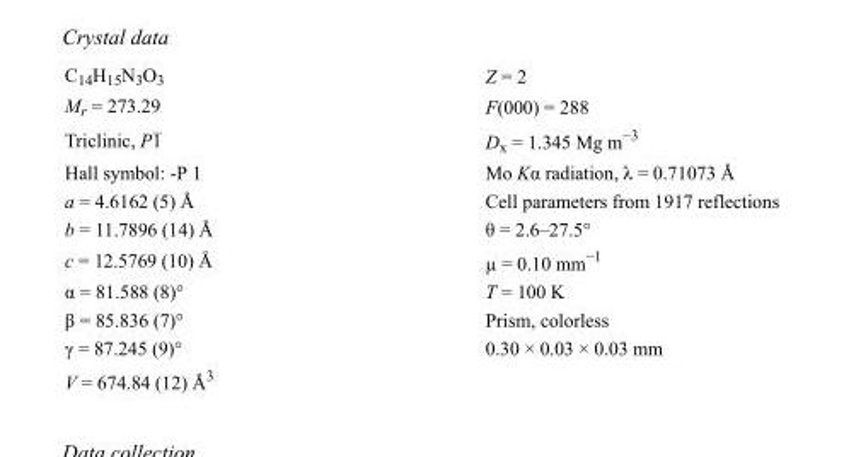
<table><tbody><tr><td>C<sub>14</sub>H<sub>15</sub>N<sub>3</sub>O<sub>3</sub></td><td>Z = 2</td></tr><tr><td>M<sub>r</sub> = 273.29</td><td>F(000) = 288</td></tr><tr><td>Triclinic, P1</td><td>D<sub>x</sub> = 1.345 Mg m<sup>−3</sup></td></tr><tr><td>Hall symbol: -P 1</td><td>Mo Kα radiation, λ = 0.71073 Å</td></tr><tr><td>a = 4.6162 (5) Å</td><td>Cell parameters from 1917 reflections</td></tr><tr><td>b = 11.7896 (14) Å</td><td>θ = 2.6–27.5°</td></tr><tr><td>c = 12.5769 (10) Å</td><td>µ = 0.10 mm<sup>−1</sup></td></tr><tr><td>α = 81.588 (8)°</td><td>T = 100 K</td></tr><tr><td>β = 85.836 (7)°</td><td>Prism, colorless</td></tr><tr><td>γ = 87.245 (9)°</td><td>0.30 × 0.03 × 0.03 mm</td></tr><tr><td>V = 674.84 (12) Å<sup>3</sup></td><td></td></tr></tbody></table>